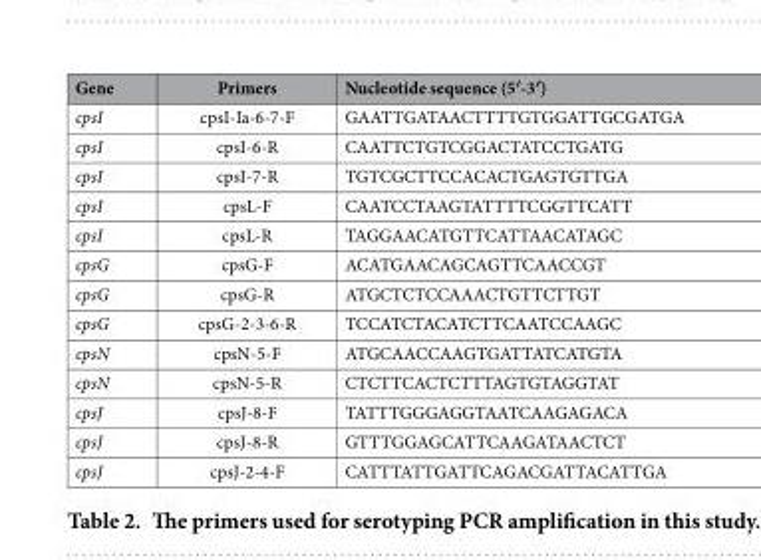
<table><thead><tr><td>Gene</td><td>Primers</td><td>Nucleotide sequence (5′-3′)</td></tr></thead><tbody><tr><td>cpsI</td><td>cpsI-Ia-6-7-F</td><td>GAATTGATAACTTTTGTGGATTGCGATGA</td></tr><tr><td>cpsI</td><td>cpsI-6-R</td><td>CAATTCTGTCGGACTATCCTGATG</td></tr><tr><td>cpsI</td><td>cpsI-7-R</td><td>TGTCGCTTCCACACTGAGTGTTGA</td></tr><tr><td>cpsI</td><td>cpsL-F</td><td>CAATCCTAAGTATTTTCGGTTCATT</td></tr><tr><td>cpsI</td><td>cpsL-R</td><td>TAGGAACATGTTCATTAACATAGC</td></tr><tr><td>cpsG</td><td>cpsG-F</td><td>ACATGAACAGCAGTTCAACCGT</td></tr><tr><td>cpsG</td><td>cpsG-R</td><td>ATGCTCTCCAAACTGTTCTTGT</td></tr><tr><td>cpsG</td><td>cpsG-2-3-6-R</td><td>TCCATCTACATCTTCAATCCAAGC</td></tr><tr><td>cpsN</td><td>cpsN-5-F</td><td>ATGCAACCAAGTGATTATCATGTA</td></tr><tr><td>cpsN</td><td>cpsN-5-R</td><td>CTCTTCACTCTTTAGTGTAGGTAT</td></tr><tr><td>cpsJ</td><td>cpsJ-8-F</td><td>TATTTGGGAGGTAATCAAGAGACA</td></tr><tr><td>cpsJ</td><td>cpsJ-8-R</td><td>GTTTGGAGCATTCAAGATAACTCT</td></tr><tr><td>cpsJ</td><td>cpsJ-2-4-F</td><td>CATTTATTGATTCAGACGATTACATTGA</td></tr></tbody></table>